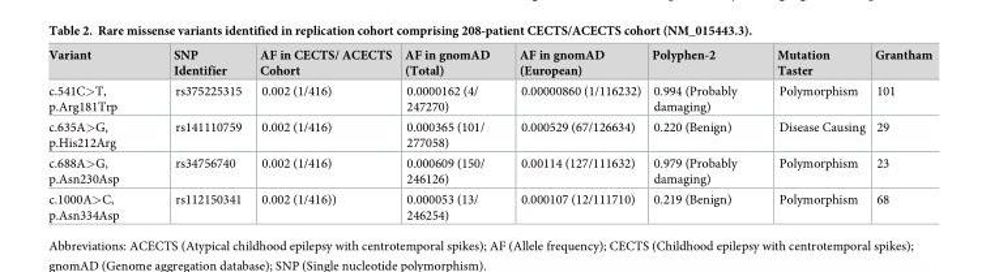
<table><thead><tr><td>Variant</td><td>SNP Identifier</td><td>AF in CECTS/ ACECTS Cohort</td><td>AF in gnomAD (Total)</td><td>AF in gnomAD (European)</td><td>Polyphen-2</td><td>Mutation Taster</td><td>Grantham</td></tr></thead><tbody><tr><td>c.541C&gt;T, p.Arg181Trp</td><td>rs375225315</td><td>0.002 (1/416)</td><td>0.0000162 (4/ 247270)</td><td>0.00000860 (1/116232)</td><td>0.994 (Probably damaging)</td><td>Polymorphism</td><td>101</td></tr><tr><td>c.635A&gt;G, p.His212Arg</td><td>rs141110759</td><td>0.002 (1/416)</td><td>0.000365 (101/ 277058)</td><td>0.000529 (67/126634)</td><td>0.220 (Benign)</td><td>Disease Causing</td><td>29</td></tr><tr><td>c.688A&gt;G, p.Asn230Asp</td><td>rs34756740</td><td>0.002 (1/416)</td><td>0.000609 (150/ 246126)</td><td>0.00114 (127/111632)</td><td>0.979 (Probably damaging)</td><td>Polymorphism</td><td>23</td></tr><tr><td>c.1000A&gt;C, p.Asn334Asp</td><td>rs112150341</td><td>0.002 (1/416))</td><td>0.000053 (13/ 246254)</td><td>0.000107 (12/111710)</td><td>0.219 (Benign)</td><td>Polymorphism</td><td>68</td></tr></tbody></table>